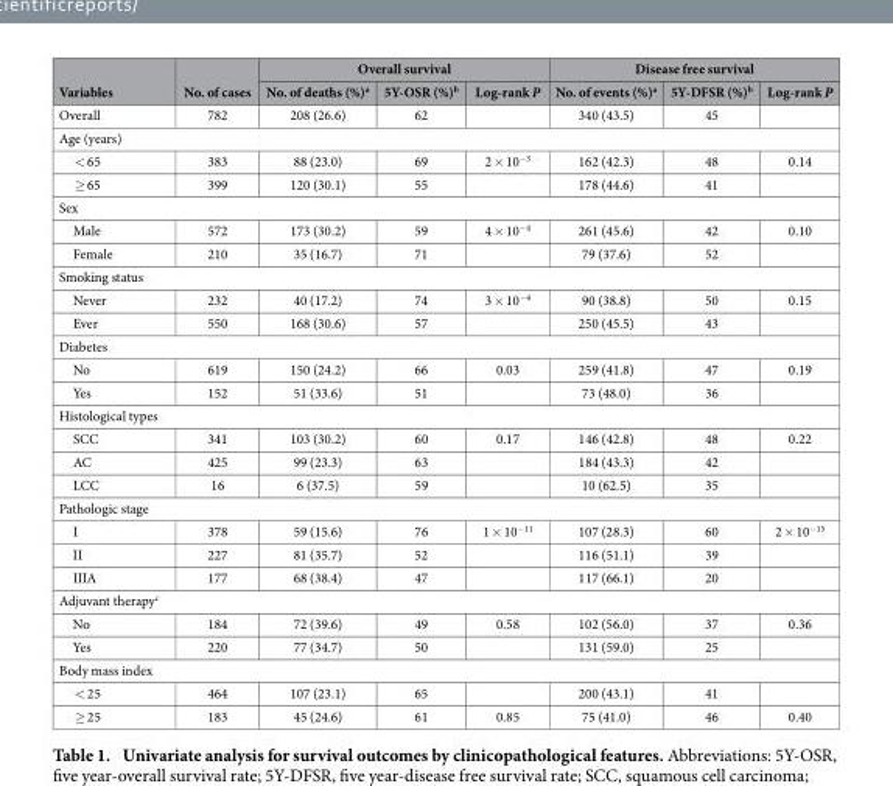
<table><thead><tr><td rowspan="2">Variables</td><td rowspan="2">No. of cases</td><td colspan="3">Overall survival</td><td colspan="3">Disease free survival</td></tr><tr><td>No. of deaths (%)<sup>a</sup></td><td>5Y-OSR (%)<sup>b</sup></td><td>Log-rank P</td><td>No. of events (%)<sup>a</sup></td><td>5Y-DFSR (%)<sup>b</sup></td><td>Log-rank P</td></tr></thead><tbody><tr><td>Overall</td><td>782</td><td>208 (26.6)</td><td>62</td><td></td><td>340 (43.5)</td><td>45</td><td></td></tr><tr><td colspan="8">Age (years)</td></tr><tr><td>&lt; 65</td><td>383</td><td>88 (23.0)</td><td>69</td><td>2 × 10<sup>−3</sup></td><td>162 (42.3)</td><td>48</td><td>0.14</td></tr><tr><td>≥ 65</td><td>399</td><td>120 (30.1)</td><td>55</td><td></td><td>178 (44.6)</td><td>41</td><td></td></tr><tr><td colspan="8">Sex</td></tr><tr><td>Male</td><td>572</td><td>173 (30.2)</td><td>59</td><td>4 × 10<sup>−4</sup></td><td>261 (45.6)</td><td>42</td><td>0.10</td></tr><tr><td>Female</td><td>210</td><td>35 (16.7)</td><td>71</td><td></td><td>79 (37.6)</td><td>52</td><td></td></tr><tr><td colspan="8">Smoking status</td></tr><tr><td>Never</td><td>232</td><td>40 (17.2)</td><td>74</td><td>3 × 10<sup>−4</sup></td><td>90 (38.8)</td><td>50</td><td>0.15</td></tr><tr><td>Ever</td><td>550</td><td>168 (30.6)</td><td>57</td><td></td><td>250 (45.5)</td><td>43</td><td></td></tr><tr><td colspan="8">Diabetes</td></tr><tr><td>No</td><td>619</td><td>150 (24.2)</td><td>66</td><td>0.03</td><td>259 (41.8)</td><td>47</td><td>0.19</td></tr><tr><td>Yes</td><td>152</td><td>51 (33.6)</td><td>51</td><td></td><td>73 (48.0)</td><td>36</td><td></td></tr><tr><td colspan="8">Histological types</td></tr><tr><td>SCC</td><td>341</td><td>103 (30.2)</td><td>60</td><td>0.17</td><td>146 (42.8)</td><td>48</td><td>0.22</td></tr><tr><td>AC</td><td>425</td><td>99 (23.3)</td><td>63</td><td></td><td>184 (43.3)</td><td>42</td><td></td></tr><tr><td>LCC</td><td>16</td><td>6 (37.5)</td><td>59</td><td></td><td>10 (62.5)</td><td>35</td><td></td></tr><tr><td colspan="8">Pathologic stage</td></tr><tr><td>I</td><td>378</td><td>59 (15.6)</td><td>76</td><td>1 × 10<sup>−11</sup></td><td>107 (28.3)</td><td>60</td><td>2 × 10<sup>−</sup>1<sup>5</sup></td></tr><tr><td>II</td><td>227</td><td>81 (35.7)</td><td>52</td><td></td><td>116 (51.1)</td><td>39</td><td></td></tr><tr><td>IIIA</td><td>177</td><td>68 (38.4)</td><td>47</td><td></td><td>117 (66.1)</td><td>20</td><td></td></tr><tr><td colspan="8">Adjuvant therapy<sup>c</sup></td></tr><tr><td>No</td><td>184</td><td>72 (39.6)</td><td>49</td><td>0.58</td><td>102 (56.0)</td><td>37</td><td>0.36</td></tr><tr><td>Yes</td><td>220</td><td>77 (34.7)</td><td>50</td><td></td><td>131 (59.0)</td><td>25</td><td></td></tr><tr><td colspan="8">Body mass index</td></tr><tr><td>&lt; 25</td><td>464</td><td>107 (23.1)</td><td>65</td><td></td><td>200 (43.1)</td><td>41</td><td></td></tr><tr><td>≥ 25</td><td>183</td><td>45 (24.6)</td><td>61</td><td>0.85</td><td>75 (41.0)</td><td>46</td><td>0.40</td></tr></tbody></table>